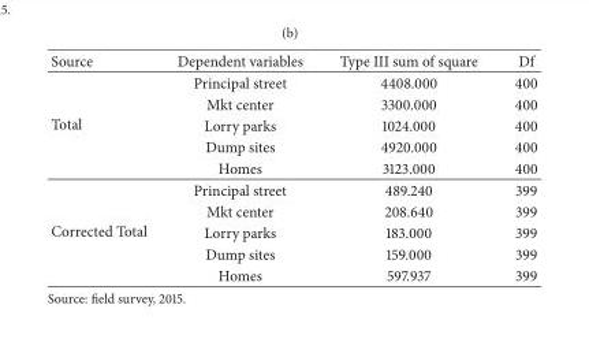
<table><thead><tr><td>Source</td><td>Dependent variables</td><td>Type III sum of square</td><td>Df</td></tr></thead><tbody><tr><td rowspan="5">Total</td><td>Principal street</td><td>4408.000</td><td>400</td></tr><tr><td>Mkt center</td><td>3300.000</td><td>400</td></tr><tr><td>Lorry parks</td><td>1024.000</td><td>400</td></tr><tr><td>Dump sites</td><td>4920.000</td><td>400</td></tr><tr><td>Homes</td><td>3123.000</td><td>400</td></tr><tr><td rowspan="5">Corrected Total</td><td>Principal street</td><td>489.240</td><td>399</td></tr><tr><td>Mkt center</td><td>208.640</td><td>399</td></tr><tr><td>Lorry parks</td><td>183.000</td><td>399</td></tr><tr><td>Dump sites</td><td>159.000</td><td>399</td></tr><tr><td>Homes</td><td>597.937</td><td>399</td></tr></tbody></table>